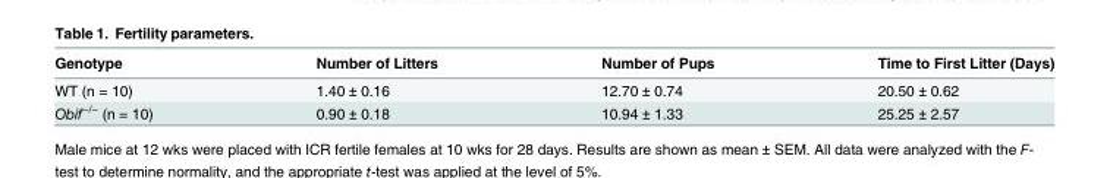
<table><thead><tr><td>Genotype</td><td>Number of Litters</td><td>Number of Pups</td><td>Time to First Litter (Days)</td></tr></thead><tbody><tr><td>WT (n = 10)</td><td>1.40 ± 0.16</td><td>12.70 ± 0.74</td><td>20.50 ± 0.62</td></tr><tr><td>Obif<sup>−/−</sup> (n = 10)</td><td>0.90 ± 0.18</td><td>10.94 ± 1.33</td><td>25.25 ± 2.57</td></tr></tbody></table>